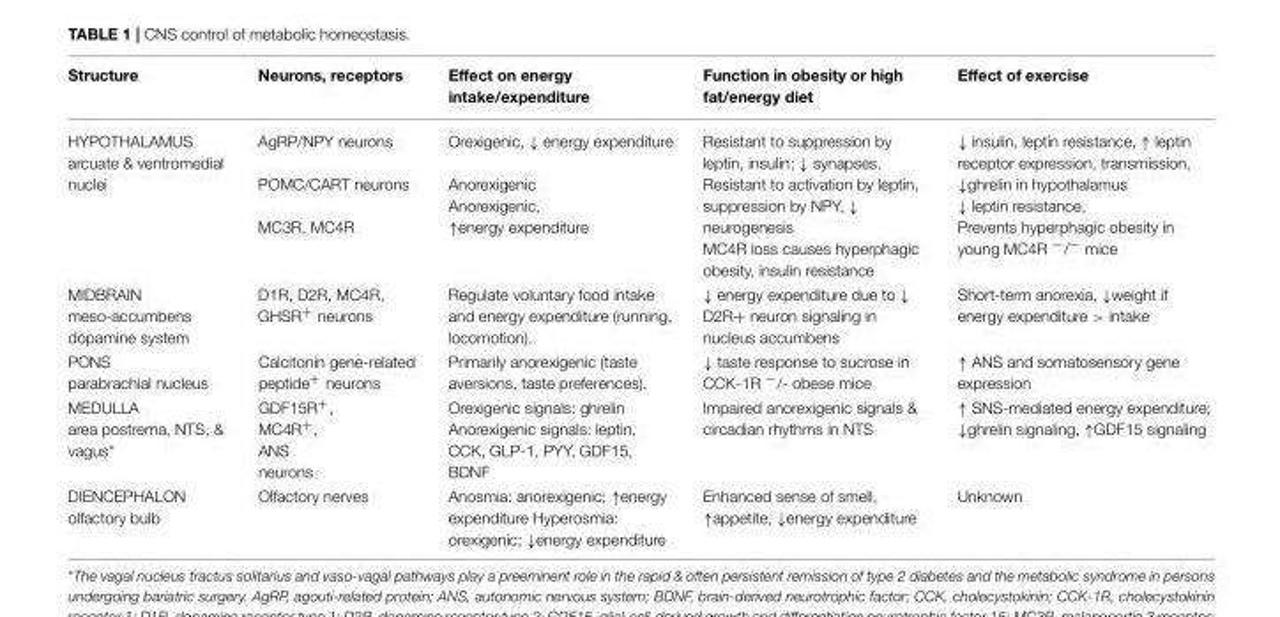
<table><thead><tr><td>Structure</td><td>Neurons, receptors</td><td>Effect on energy intake/expenditure</td><td>Function in obesity or high fat/energy diet</td><td>Effect of exercise</td></tr></thead><tbody><tr><td>HYPOTHALAMUS arcuate &amp; ventromedial nuclei</td><td>AgRP/NPY neurons POMC/CART neurons MC3R, MC4R</td><td>Orexigenic, ↓ energy expenditure Anorexigenic Anorexigenic, ↑energy expenditure</td><td>Resistant to suppression by leptin, insulin; ↓ synapses. Resistant to activation by leptin, suppression by NPY, ↓ neurogenesis MC4R loss causes hyperphagic obesity, insulin resistance</td><td>↓ insulin, leptin resistance, ↑ leptin receptor expression, transmission, ↓ghrelin in hypothalamus ↓ leptin resistance, Prevents hyperphagic obesity in young MC4R <sup>−</sup>/<sup>−</sup> mice</td></tr><tr><td>MIDBRAIN meso-accumbens dopamine system</td><td>D1R, D2R, MC4R, GHSR<sup>+</sup> neurons</td><td>Regulate voluntary food intake and energy expenditure (running, locomotion).</td><td>↓ energy expenditure due to ↓ D2R+ neuron signaling in nucleus accumbens</td><td>Short-term anorexia, ↓weight if energy expenditure &gt; intake</td></tr><tr><td>PONS parabrachial nucleus</td><td>Calcitonin gene-related peptide<sup>+</sup> neurons</td><td>Primarily anorexigenic (taste aversions, taste preferences).</td><td>↓ taste response to sucrose in CCK-1R <sup>−</sup>/- obese mice</td><td>↑ ANS and somatosensory gene expression</td></tr><tr><td>MEDULLA area postrema, NTS, &amp; vagus*</td><td>GDF15R<sup>+</sup>, MC4R<sup>+</sup>, ANS neurons</td><td>Orexigenic signals: ghrelin Anorexigenic signals: leptin, CCK, GLP-1, PYY, GDF15, BDNF</td><td>Impaired anorexigenic signals &amp; circadian rhythms in NTS</td><td>↑ SNS-mediated energy expenditure; ↓ghrelin signaling, ↑GDF15 signaling</td></tr><tr><td>DIENCEPHALON olfactory bulb</td><td>Olfactory nerves</td><td>Anosmia: anorexigenic; ↑energy expenditure Hyperosmia: orexigenic; ↓energy expenditure</td><td>Enhanced sense of smell, ↑appetite, ↓energy expenditure</td><td>Unknown</td></tr></tbody></table>